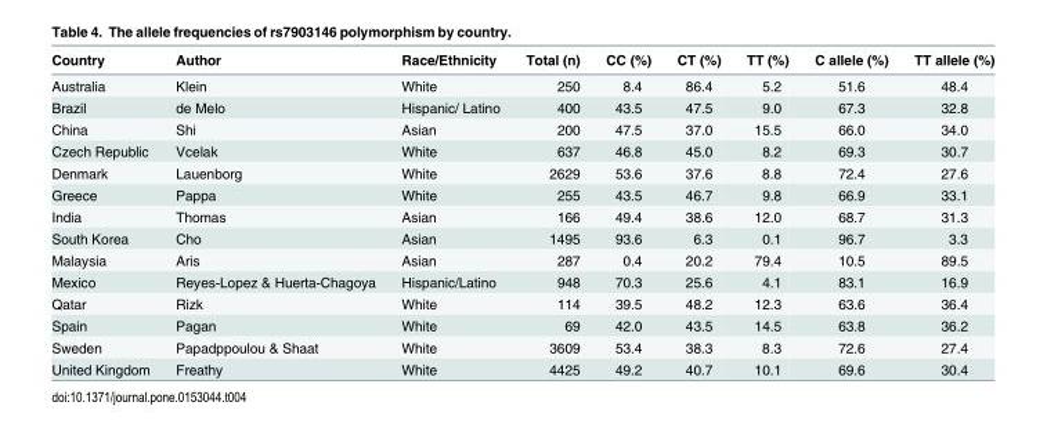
<table><thead><tr><td>Country</td><td>Author</td><td>Race/Ethnicity</td><td>Total (n)</td><td>CC (%)</td><td>CT (%)</td><td>TT (%)</td><td>C allele (%)</td><td>TT allele (%)</td></tr></thead><tbody><tr><td>Australia</td><td>Klein</td><td>White</td><td>250</td><td>8.4</td><td>86.4</td><td>5.2</td><td>51.6</td><td>48.4</td></tr><tr><td>Brazil</td><td>de Melo</td><td>Hispanic/ Latino</td><td>400</td><td>43.5</td><td>47.5</td><td>9.0</td><td>67.3</td><td>32.8</td></tr><tr><td>China</td><td>Shi</td><td>Asian</td><td>200</td><td>47.5</td><td>37.0</td><td>15.5</td><td>66.0</td><td>34.0</td></tr><tr><td>Czech Republic</td><td>Vcelak</td><td>White</td><td>637</td><td>46.8</td><td>45.0</td><td>8.2</td><td>69.3</td><td>30.7</td></tr><tr><td>Denmark</td><td>Lauenborg</td><td>White</td><td>2629</td><td>53.6</td><td>37.6</td><td>8.8</td><td>72.4</td><td>27.6</td></tr><tr><td>Greece</td><td>Pappa</td><td>White</td><td>255</td><td>43.5</td><td>46.7</td><td>9.8</td><td>66.9</td><td>33.1</td></tr><tr><td>India</td><td>Thomas</td><td>Asian</td><td>166</td><td>49.4</td><td>38.6</td><td>12.0</td><td>68.7</td><td>31.3</td></tr><tr><td>South Korea</td><td>Cho</td><td>Asian</td><td>1495</td><td>93.6</td><td>6.3</td><td>0.1</td><td>96.7</td><td>3.3</td></tr><tr><td>Malaysia</td><td>Aris</td><td>Asian</td><td>287</td><td>0.4</td><td>20.2</td><td>79.4</td><td>10.5</td><td>89.5</td></tr><tr><td>Mexico</td><td>Reyes-Lopez &amp; Huerta-Chagoya</td><td>Hispanic/Latino</td><td>948</td><td>70.3</td><td>25.6</td><td>4.1</td><td>83.1</td><td>16.9</td></tr><tr><td>Qatar</td><td>Rizk</td><td>White</td><td>114</td><td>39.5</td><td>48.2</td><td>12.3</td><td>63.6</td><td>36.4</td></tr><tr><td>Spain</td><td>Pagan</td><td>White</td><td>69</td><td>42.0</td><td>43.5</td><td>14.5</td><td>63.8</td><td>36.2</td></tr><tr><td>Sweden</td><td>Papadppoulou &amp; Shaat</td><td>White</td><td>3609</td><td>53.4</td><td>38.3</td><td>8.3</td><td>72.6</td><td>27.4</td></tr><tr><td>United Kingdom</td><td>Freathy</td><td>White</td><td>4425</td><td>49.2</td><td>40.7</td><td>10.1</td><td>69.6</td><td>30.4</td></tr></tbody></table>